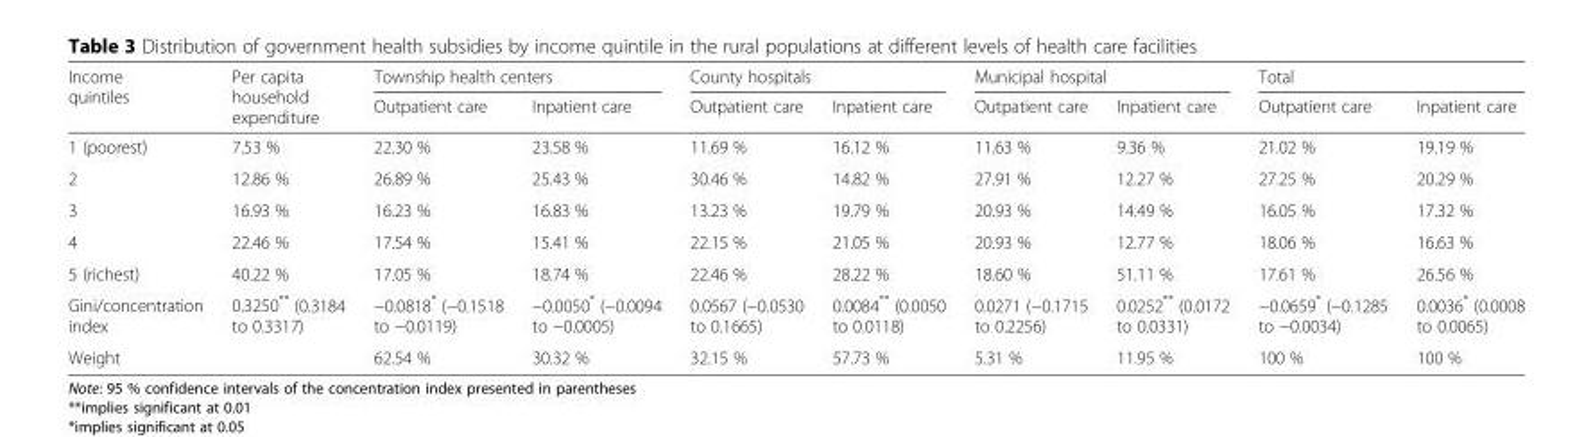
<table><thead><tr><td rowspan="2">Income quintiles</td><td rowspan="2">Per capita household expenditure</td><td colspan="2">Township health centers</td><td colspan="2">County hospitals</td><td colspan="2">Municipal hospital</td><td colspan="2">Total</td></tr><tr><td>Outpatient care</td><td>Inpatient care</td><td>Outpatient care</td><td>Inpatient care</td><td>Outpatient care</td><td>Inpatient care</td><td>Outpatient care</td><td>Inpatient care</td></tr></thead><tbody><tr><td>1 (poorest)</td><td>7.53 %</td><td>22.30 %</td><td>23.58 %</td><td>11.69 %</td><td>16.12 %</td><td>11.63 %</td><td>9.36 %</td><td>21.02 %</td><td>19.19 %</td></tr><tr><td>2</td><td>12.86 %</td><td>26.89 %</td><td>25.43 %</td><td>30.46 %</td><td>14.82 %</td><td>27.91 %</td><td>12.27 %</td><td>27.25 %</td><td>20.29 %</td></tr><tr><td>3</td><td>16.93 %</td><td>16.23 %</td><td>16.83 %</td><td>13.23 %</td><td>19.79 %</td><td>20.93 %</td><td>14.49 %</td><td>16.05 %</td><td>17.32 %</td></tr><tr><td>4</td><td>22.46 %</td><td>17.54 %</td><td>15.41 %</td><td>22.15 %</td><td>21.05 %</td><td>20.93 %</td><td>12.77 %</td><td>18.06 %</td><td>16.63 %</td></tr><tr><td>5 (richest)</td><td>40.22 %</td><td>17.05 %</td><td>18.74 %</td><td>22.46 %</td><td>28.22 %</td><td>18.60 %</td><td>51.11 %</td><td>17.61 %</td><td>26.56 %</td></tr><tr><td>Gini/concentration index</td><td>0.3250** (0.3184 to 0.3317)</td><td>−0.0818* (−0.1518 to −0.0119)</td><td>−0.0050* (−0.0094 to −0.0005)</td><td>0.0567 (−0.0530 to 0.1665)</td><td>0.0084** (0.0050 to 0.0118)</td><td>0.0271 (−0.1715 to 0.2256)</td><td>0.0252** (0.0172 to 0.0331)</td><td>−0.0659* (−0.1285 to −0.0034)</td><td>0.0036* (0.0008 to 0.0065)</td></tr><tr><td>Weight</td><td></td><td>62.54 %</td><td>30.32 %</td><td>32.15 %</td><td>57.73 %</td><td>5.31 %</td><td>11.95 %</td><td>100 %</td><td>100 %</td></tr></tbody></table>